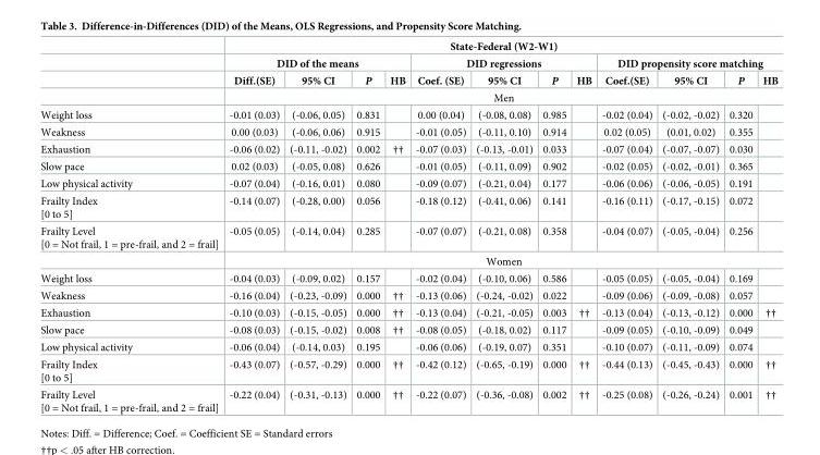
<table><thead><tr><td rowspan="3"></td><td colspan="12">State-Federal (W2-W1)</td></tr><tr><td colspan="4">DID of the means</td><td colspan="4">DID regressions</td><td colspan="4">DID propensity score matching</td></tr><tr><td>Diff.(SE)</td><td>95% CI</td><td>P</td><td>HB</td><td>Coef. (SE)</td><td>95% CI</td><td>P</td><td>HB</td><td>Coef.(SE)</td><td>95% CI</td><td>P</td><td>HB</td></tr></thead><tbody><tr><td></td><td colspan="12">Men</td></tr><tr><td>Weight loss</td><td>-0.01 (0.03)</td><td>(-0.06, 0.05)</td><td>0.831</td><td></td><td>0.00 (0.04)</td><td>(-0.08, 0.08)</td><td>0.985</td><td></td><td>-0.02 (0.04)</td><td>(-0.02, -0.02)</td><td>0.320</td><td></td></tr><tr><td>Weakness</td><td>0.00 (0.03)</td><td>(-0.06, 0.06)</td><td>0.915</td><td></td><td>-0.01 (0.05)</td><td>(-0.11, 0.10)</td><td>0.914</td><td></td><td>0.02 (0.05)</td><td>(0.01, 0.02)</td><td>0.355</td><td></td></tr><tr><td>Exhaustion</td><td>-0.06 (0.02)</td><td>(-0.11, -0.02)</td><td>0.002</td><td>††</td><td>-0.07 (0.03)</td><td>(-0.13, -0.01)</td><td>0.033</td><td></td><td>-0.07 (0.04)</td><td>(-0.07, -0.07)</td><td>0.030</td><td></td></tr><tr><td>Slow pace</td><td>0.02 (0.03)</td><td>(-0.05, 0.08)</td><td>0.626</td><td></td><td>-0.01 (0.05)</td><td>(-0.11, 0.09)</td><td>0.902</td><td></td><td>-0.02 (0.05)</td><td>(-0.02, -0.01)</td><td>0.365</td><td></td></tr><tr><td>Low physical activity</td><td>-0.07 (0.04)</td><td>(-0.16, 0.01)</td><td>0.080</td><td></td><td>-0.09 (0.07)</td><td>(-0.21, 0.04)</td><td>0.177</td><td></td><td>-0.06 (0.06)</td><td>(-0.06, -0.05)</td><td>0.191</td><td></td></tr><tr><td>Frailty Index [0 to 5]</td><td>-0.14 (0.07)</td><td>(-0.28, 0.00)</td><td>0.056</td><td></td><td>-0.18 (0.12)</td><td>(-0.41, 0.06)</td><td>0.141</td><td></td><td>-0.16 (0.11)</td><td>(-0.17, -0.15)</td><td>0.072</td><td></td></tr><tr><td rowspan="2">Frailty Level [0 = Not frail, 1 = pre-frail, and 2 = frail]</td><td>-0.05 (0.05)</td><td>(-0.14, 0.04)</td><td>0.285</td><td></td><td>-0.07 (0.07)</td><td>(-0.21, 0.08)</td><td>0.358</td><td></td><td>-0.04 (0.07)</td><td>(-0.05, -0.04)</td><td>0.256</td><td></td></tr><tr><td colspan="12">Women</td></tr><tr><td>Weight loss</td><td>-0.04 (0.03)</td><td>(-0.09, 0.02)</td><td>0.157</td><td></td><td>-0.02 (0.04)</td><td>(-0.10, 0.06)</td><td>0.586</td><td></td><td>-0.05 (0.05)</td><td>(-0.05, -0.04)</td><td>0.169</td><td></td></tr><tr><td>Weakness</td><td>-0.16 (0.04)</td><td>(-0.23, -0.09)</td><td>0.000</td><td>††</td><td>-0.13 (0.06)</td><td>(-0.24, -0.02)</td><td>0.022</td><td></td><td>-0.09 (0.06)</td><td>(-0.09, -0.08)</td><td>0.057</td><td></td></tr><tr><td>Exhaustion</td><td>-0.10 (0.03)</td><td>(-0.15, -0.05)</td><td>0.000</td><td>††</td><td>-0.13 (0.04)</td><td>(-0.21, -0.05)</td><td>0.003</td><td>††</td><td>-0.13 (0.04)</td><td>(-0.13, -0.12)</td><td>0.000</td><td>††</td></tr><tr><td>Slow pace</td><td>-0.08 (0.03)</td><td>(-0.15, -0.02)</td><td>0.008</td><td>††</td><td>-0.08 (0.05)</td><td>(-0.18, 0.02)</td><td>0.117</td><td></td><td>-0.09 (0.05)</td><td>(-0.10, -0.09)</td><td>0.049</td><td></td></tr><tr><td>Low physical activity</td><td>-0.06 (0.04)</td><td>(-0.14, 0.03)</td><td>0.195</td><td></td><td>-0.06 (0.06)</td><td>(-0.19, 0.07)</td><td>0.351</td><td></td><td>-0.10 (0.07)</td><td>(-0.11, -0.09)</td><td>0.074</td><td></td></tr><tr><td>Frailty Index [0 to 5]</td><td>-0.43 (0.07)</td><td>(-0.57, -0.29)</td><td>0.000</td><td>††</td><td>-0.42 (0.12)</td><td>(-0.65, -0.19)</td><td>0.000</td><td>††</td><td>-0.44 (0.13)</td><td>(-0.45, -0.43)</td><td>0.000</td><td>††</td></tr><tr><td>Frailty Level [0 = Not frail, 1 = pre-frail, and 2 = frail]</td><td>-0.22 (0.04)</td><td>(-0.31, -0.13)</td><td>0.000</td><td>††</td><td>-0.22 (0.07)</td><td>(-0.36, -0.08)</td><td>0.002</td><td>††</td><td>-0.25 (0.08)</td><td>(-0.26, -0.24)</td><td>0.001</td><td>††</td></tr></tbody></table>